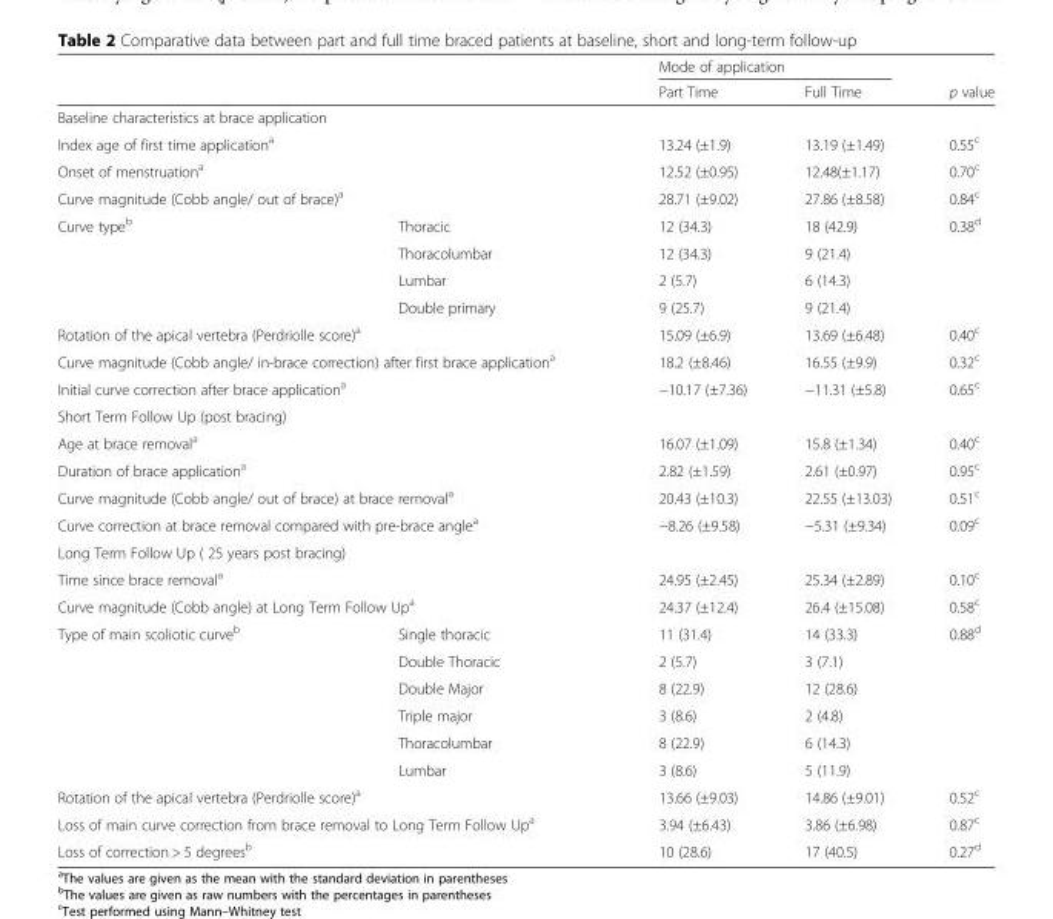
<table><thead><tr><td rowspan="2"></td><td rowspan="2"></td><td colspan="2">Mode of application</td><td rowspan="2">p value</td></tr><tr><td>Part Time</td><td>Full Time</td></tr></thead><tbody><tr><td colspan="5">Baseline characteristics at brace application</td></tr><tr><td colspan="2">Index age of first time application<sup>a</sup></td><td>13.24 (±1.9)</td><td>13.19 (±1.49)</td><td>0.55<sup>c</sup></td></tr><tr><td colspan="2">Onset of menstruation<sup>a</sup></td><td>12.52 (±0.95)</td><td>12.48(±1.17)</td><td>0.70<sup>c</sup></td></tr><tr><td colspan="2">Curve magnitude (Cobb angle/ out of brace)<sup>a</sup></td><td>28.71 (±9.02)</td><td>27.86 (±8.58)</td><td>0.84<sup>c</sup></td></tr><tr><td rowspan="4">Curve type<sup>b</sup></td><td>Thoracic</td><td>12 (34.3)</td><td>18 (42.9)</td><td>0.38<sup>d</sup></td></tr><tr><td>Thoracolumbar</td><td>12 (34.3)</td><td>9 (21.4)</td><td></td></tr><tr><td>Lumbar</td><td>2 (5.7)</td><td>6 (14.3)</td><td></td></tr><tr><td>Double primary</td><td>9 (25.7)</td><td>9 (21.4)</td><td></td></tr><tr><td colspan="2">Rotation of the apical vertebra (Perdriolle score)<sup>a</sup></td><td>15.09 (±6.9)</td><td>13.69 (±6.48)</td><td>0.40<sup>c</sup></td></tr><tr><td colspan="2">Curve magnitude (Cobb angle/ in-brace correction) after first brace application<sup>a</sup></td><td>18.2 (±8.46)</td><td>16.55 (±9.9)</td><td>0.32<sup>c</sup></td></tr><tr><td colspan="2">Initial curve correction after brace application<sup>a</sup></td><td>−10.17 (±7.36)</td><td>−11.31 (±5.8)</td><td>0.65<sup>c</sup></td></tr><tr><td colspan="5">Short Term Follow Up (post bracing)</td></tr><tr><td colspan="2">Age at brace removal<sup>a</sup></td><td>16.07 (±1.09)</td><td>15.8 (±1.34)</td><td>0.40<sup>c</sup></td></tr><tr><td colspan="2">Duration of brace application<sup>a</sup></td><td>2.82 (±1.59)</td><td>2.61 (±0.97)</td><td>0.95<sup>c</sup></td></tr><tr><td colspan="2">Curve magnitude (Cobb angle/ out of brace) at brace removal<sup>a</sup></td><td>20.43 (±10.3)</td><td>22.55 (±13.03)</td><td>0.51<sup>c</sup></td></tr><tr><td colspan="2">Curve correction at brace removal compared with pre-brace angle<sup>a</sup></td><td>−8.26 (±9.58)</td><td>−5.31 (±9.34)</td><td>0.09<sup>c</sup></td></tr><tr><td colspan="5">Long Term Follow Up ( 25 years post bracing)</td></tr><tr><td colspan="2">Time since brace removal<sup>a</sup></td><td>24.95 (±2.45)</td><td>25.34 (±2.89)</td><td>0.10<sup>c</sup></td></tr><tr><td colspan="2">Curve magnitude (Cobb angle) at Long Term Follow Up<sup>a</sup></td><td>24.37 (±12.4)</td><td>26.4 (±15.08)</td><td>0.58<sup>c</sup></td></tr><tr><td rowspan="6">Type of main scoliotic curve<sup>b</sup></td><td>Single thoracic</td><td>11 (31.4)</td><td>14 (33.3)</td><td>0.88<sup>d</sup></td></tr><tr><td>Double Thoracic</td><td>2 (5.7)</td><td>3 (7.1)</td><td></td></tr><tr><td>Double Major</td><td>8 (22.9)</td><td>12 (28.6)</td><td></td></tr><tr><td>Triple major</td><td>3 (8.6)</td><td>2 (4.8)</td><td></td></tr><tr><td>Thoracolumbar</td><td>8 (22.9)</td><td>6 (14.3)</td><td></td></tr><tr><td>Lumbar</td><td>3 (8.6)</td><td>5 (11.9)</td><td></td></tr><tr><td colspan="2">Rotation of the apical vertebra (Perdriolle score)<sup>a</sup></td><td>13.66 (±9.03)</td><td>14.86 (±9.01)</td><td>0.52<sup>c</sup></td></tr><tr><td colspan="2">Loss of main curve correction from brace removal to Long Term Follow Up<sup>a</sup></td><td>3.94 (±6.43)</td><td>3.86 (±6.98)</td><td>0.87<sup>c</sup></td></tr><tr><td colspan="2">Loss of correction &gt; 5 degrees<sup>b</sup></td><td>10 (28.6)</td><td>17 (40.5)</td><td>0.27<sup>d</sup></td></tr></tbody></table>